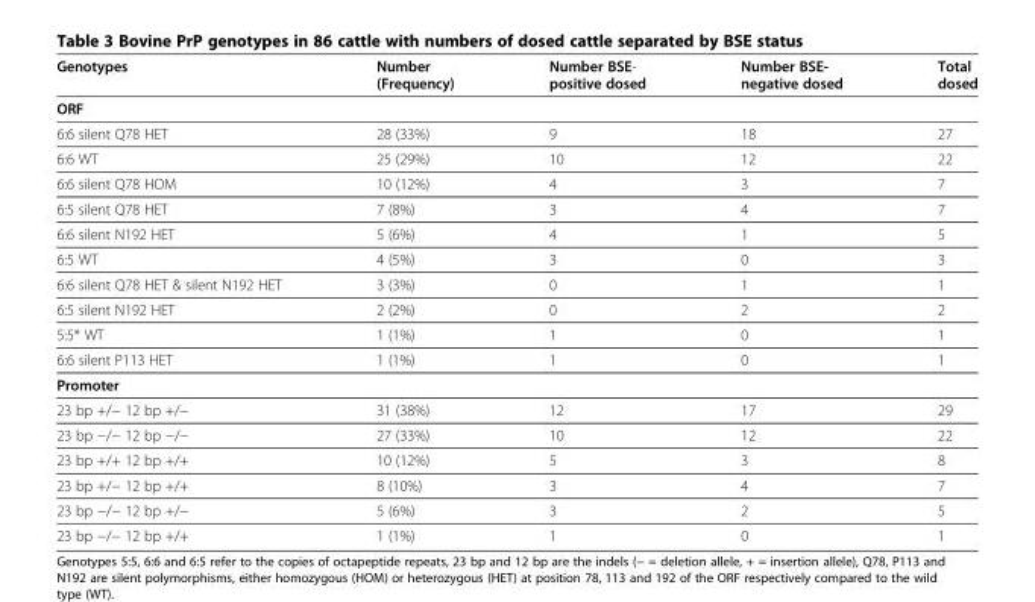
<table><thead><tr><td>Genotypes</td><td>Number (Frequency)</td><td>Number BSE- positive dosed</td><td>Number BSE- negative dosed</td><td>Total dosed</td></tr></thead><tbody><tr><td colspan="5">ORF</td></tr><tr><td>6:6 silent Q78 HET</td><td>28 (33%)</td><td>9</td><td>18</td><td>27</td></tr><tr><td>6:6 WT</td><td>25 (29%)</td><td>10</td><td>12</td><td>22</td></tr><tr><td>6:6 silent Q78 HOM</td><td>10 (12%)</td><td>4</td><td>3</td><td>7</td></tr><tr><td>6:5 silent Q78 HET</td><td>7 (8%)</td><td>3</td><td>4</td><td>7</td></tr><tr><td>6:6 silent N192 HET</td><td>5 (6%)</td><td>4</td><td>1</td><td>5</td></tr><tr><td>6:5 WT</td><td>4 (5%)</td><td>3</td><td>0</td><td>3</td></tr><tr><td>6:6 silent Q78 HET &amp; silent N192 HET</td><td>3 (3%)</td><td>0</td><td>1</td><td>1</td></tr><tr><td>6:5 silent N192 HET</td><td>2 (2%)</td><td>0</td><td>2</td><td>2</td></tr><tr><td>5:5* WT</td><td>1 (1%)</td><td>1</td><td>0</td><td>1</td></tr><tr><td>6:6 silent P113 HET</td><td>1 (1%)</td><td>1</td><td>0</td><td>1</td></tr><tr><td colspan="5">Promoter</td></tr><tr><td>23 bp +/− 12 bp +/−</td><td>31 (38%)</td><td>12</td><td>17</td><td>29</td></tr><tr><td>23 bp −/− 12 bp −/−</td><td>27 (33%)</td><td>10</td><td>12</td><td>22</td></tr><tr><td>23 bp +/+ 12 bp +/+</td><td>10 (12%)</td><td>5</td><td>3</td><td>8</td></tr><tr><td>23 bp +/− 12 bp +/+</td><td>8 (10%)</td><td>3</td><td>4</td><td>7</td></tr><tr><td>23 bp −/− 12 bp +/−</td><td>5 (6%)</td><td>3</td><td>2</td><td>5</td></tr><tr><td>23 bp −/− 12 bp +/+</td><td>1 (1%)</td><td>1</td><td>0</td><td>1</td></tr></tbody></table>